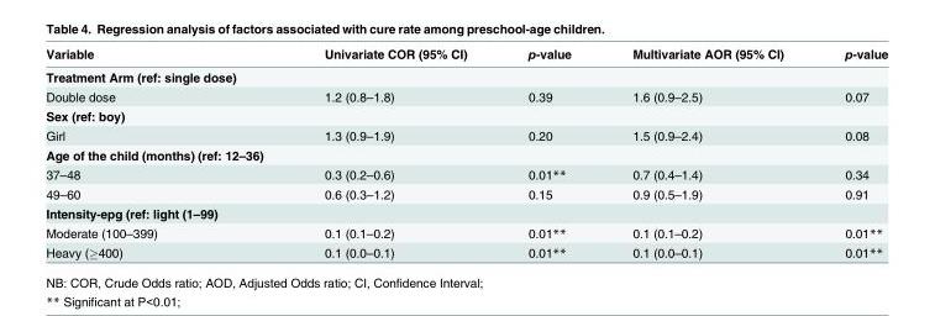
<table><thead><tr><td>Variable</td><td>Univariate COR (95% CI)</td><td>p-value</td><td>Multivariate AOR (95% CI)</td><td>p-value</td></tr></thead><tbody><tr><td colspan="5">Treatment Arm (ref: single dose)</td></tr><tr><td>Double dose</td><td>1.2 (0.8–1.8)</td><td>0.39</td><td>1.6 (0.9–2.5)</td><td>0.07</td></tr><tr><td colspan="5">Sex (ref: boy)</td></tr><tr><td>Girl</td><td>1.3 (0.9–1.9)</td><td>0.20</td><td>1.5 (0.9–2.4)</td><td>0.08</td></tr><tr><td colspan="5">Age of the child (months) (ref: 12–36)</td></tr><tr><td>37–48</td><td>0.3 (0.2–0.6)</td><td>0.01**</td><td>0.7 (0.4–1.4)</td><td>0.34</td></tr><tr><td>49–60</td><td>0.6 (0.3–1.2)</td><td>0.15</td><td>0.9 (0.5–1.9)</td><td>0.91</td></tr><tr><td colspan="5">Intensity-epg (ref: light (1–99)</td></tr><tr><td>Moderate (100–399)</td><td>0.1 (0.1–0.2)</td><td>0.01**</td><td>0.1 (0.1–0.2)</td><td>0.01**</td></tr><tr><td>Heavy (≥400)</td><td>0.1 (0.0–0.1)</td><td>0.01**</td><td>0.1 (0.0–0.1)</td><td>0.01**</td></tr></tbody></table>